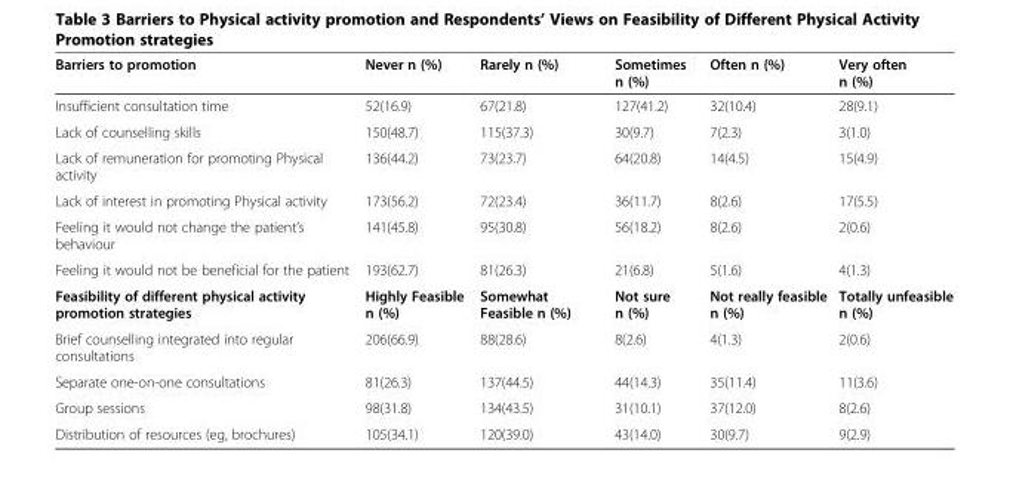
<table><thead><tr><td>Barriers to promotion</td><td>Never n (%)</td><td>Rarely n (%)</td><td>Sometimes n (%)</td><td>Often n (%)</td><td>Very often n (%)</td></tr></thead><tbody><tr><td>Insufficient consultation time</td><td>52(16.9)</td><td>67(21.8)</td><td>127(41.2)</td><td>32(10.4)</td><td>28(9.1)</td></tr><tr><td>Lack of counselling skills</td><td>150(48.7)</td><td>115(37.3)</td><td>30(9.7)</td><td>7(2.3)</td><td>3(1.0)</td></tr><tr><td>Lack of remuneration for promoting Physical activity</td><td>136(44.2)</td><td>73(23.7)</td><td>64(20.8)</td><td>14(4.5)</td><td>15(4.9)</td></tr><tr><td>Lack of interest in promoting Physical activity</td><td>173(56.2)</td><td>72(23.4)</td><td>36(11.7)</td><td>8(2.6)</td><td>17(5.5)</td></tr><tr><td>Feeling it would not change the patient’s behaviour</td><td>141(45.8)</td><td>95(30.8)</td><td>56(18.2)</td><td>8(2.6)</td><td>2(0.6)</td></tr><tr><td>Feeling it would not be beneficial for the patient</td><td>193(62.7)</td><td>81(26.3)</td><td>21(6.8)</td><td>5(1.6)</td><td>4(1.3)</td></tr><tr><td>Feasibility of different physical activity promotion strategies</td><td>Highly Feasible n (%)</td><td>Somewhat Feasible n (%)</td><td>Not sure n (%)</td><td>Not really feasible n (%)</td><td>Totally unfeasible n (%)</td></tr><tr><td>Brief counselling integrated into regular consultations</td><td>206(66.9)</td><td>88(28.6)</td><td>8(2.6)</td><td>4(1.3)</td><td>2(0.6)</td></tr><tr><td>Separate one-on-one consultations</td><td>81(26.3)</td><td>137(44.5)</td><td>44(14.3)</td><td>35(11.4)</td><td>11(3.6)</td></tr><tr><td>Group sessions</td><td>98(31.8)</td><td>134(43.5)</td><td>31(10.1)</td><td>37(12.0)</td><td>8(2.6)</td></tr><tr><td>Distribution of resources (eg, brochures)</td><td>105(34.1)</td><td>120(39.0)</td><td>43(14.0)</td><td>30(9.7)</td><td>9(2.9)</td></tr></tbody></table>